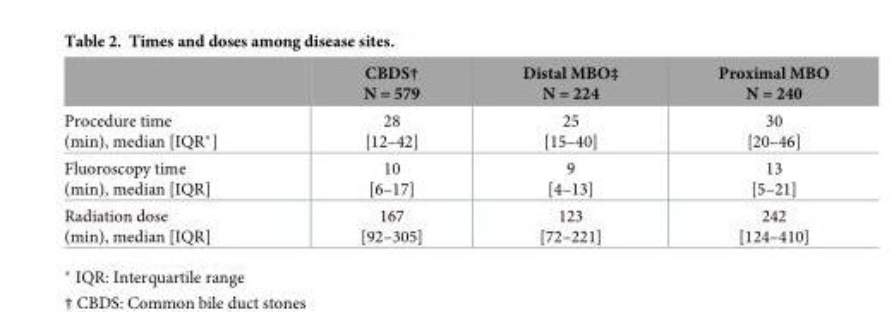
<table><thead><tr><td></td><td>CBDS† N = 579</td><td>Distal MBO‡ N = 224</td><td>Proximal MBO N = 240</td></tr></thead><tbody><tr><td>Procedure time (min), median [IQR*]</td><td>28 [12–42]</td><td>25 [15–40]</td><td>30 [20–46]</td></tr><tr><td>Fluoroscopy time (min), median [IQR]</td><td>10 [6–17]</td><td>9 [4–13]</td><td>13 [5–21]</td></tr><tr><td>Radiation dose (min), median [IQR]</td><td>167 [92–305]</td><td>123 [72–221]</td><td>242 [124–410]</td></tr></tbody></table>